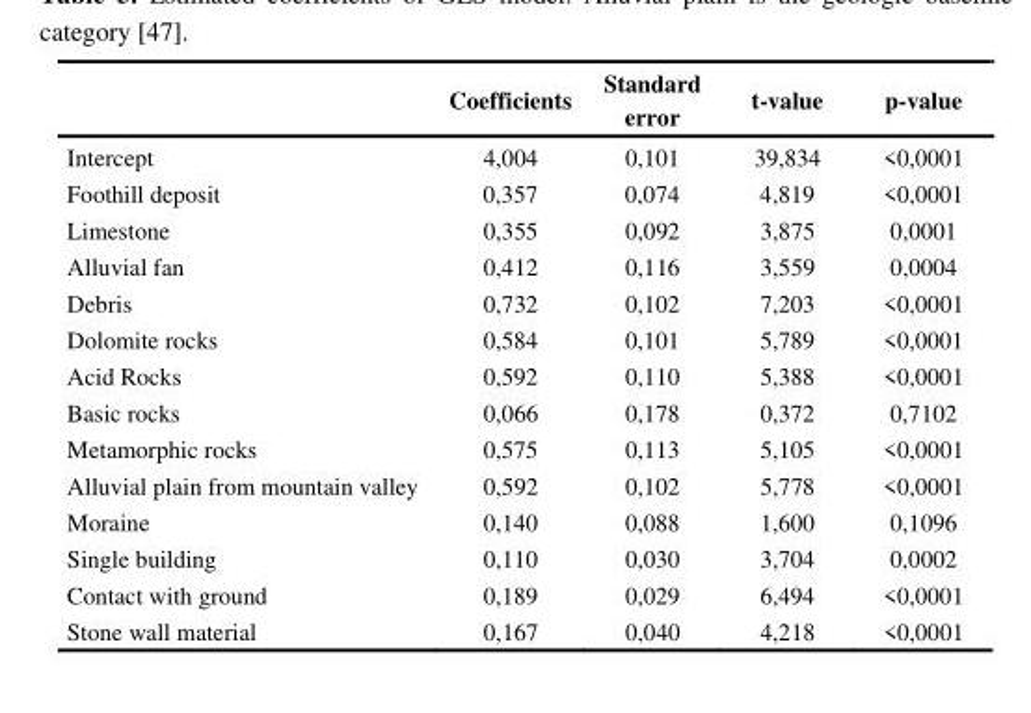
<table><thead><tr><td></td><td>Coefficients</td><td>Standard error</td><td>t-value</td><td>p-value</td></tr></thead><tbody><tr><td>Intercept</td><td>4,004</td><td>0,101</td><td>39,834</td><td>&lt;0,0001</td></tr><tr><td>Foothill deposit</td><td>0,357</td><td>0,074</td><td>4,819</td><td>&lt;0,0001</td></tr><tr><td>Limestone</td><td>0,355</td><td>0,092</td><td>3,875</td><td>0,0001</td></tr><tr><td>Alluvial fan</td><td>0,412</td><td>0,116</td><td>3,559</td><td>0,0004</td></tr><tr><td>Debris</td><td>0,732</td><td>0,102</td><td>7,203</td><td>&lt;0,0001</td></tr><tr><td>Dolomite rocks</td><td>0,584</td><td>0,101</td><td>5,789</td><td>&lt;0,0001</td></tr><tr><td>Acid Rocks</td><td>0,592</td><td>0,110</td><td>5,388</td><td>&lt;0,0001</td></tr><tr><td>Basic rocks</td><td>0,066</td><td>0,178</td><td>0,372</td><td>0,7102</td></tr><tr><td>Metamorphic rocks</td><td>0,575</td><td>0,113</td><td>5,105</td><td>&lt;0,0001</td></tr><tr><td>Alluvial plain from mountain valley</td><td>0,592</td><td>0,102</td><td>5,778</td><td>&lt;0,0001</td></tr><tr><td>Moraine</td><td>0,140</td><td>0,088</td><td>1,600</td><td>0,1096</td></tr><tr><td>Single building</td><td>0,110</td><td>0,030</td><td>3,704</td><td>0,0002</td></tr><tr><td>Contact with ground</td><td>0,189</td><td>0,029</td><td>6,494</td><td>&lt;0,0001</td></tr><tr><td>Stone wall material</td><td>0,167</td><td>0,040</td><td>4,218</td><td>&lt;0,0001</td></tr></tbody></table>